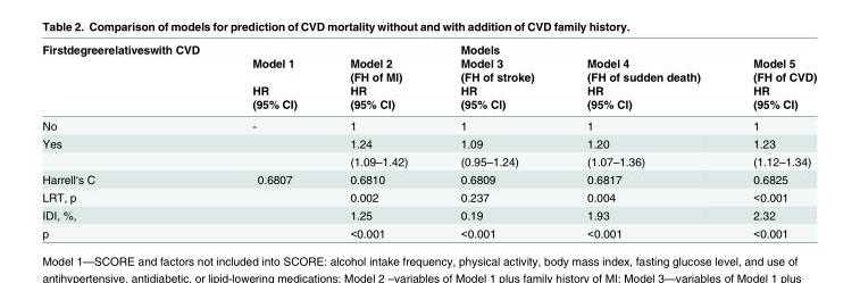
<table><thead><tr><td rowspan="5">Firstdegreerelativeswith CVD</td><td rowspan="5">Model 1 HR (95% CI)</td><td rowspan="5">Model 2 (FH of MI) HR (95% CI)</td><td rowspan="5">Models Model 3 (FH of stroke) HR (95% CI)</td><td rowspan="5">Model 4 (FH of sudden death) HR (95% CI)</td><td rowspan="5">Model 5 (FH of CVD) HR (95% CI)</td></tr><tr></tr><tr></tr><tr></tr><tr></tr></thead><tbody><tr><td>No</td><td>-</td><td>1</td><td>1</td><td>1</td><td>1</td></tr><tr><td rowspan="2">Yes</td><td></td><td>1.24</td><td>1.09</td><td>1.20</td><td>1.23</td></tr><tr><td></td><td>(1.09–1.42)</td><td>(0.95–1.24)</td><td>(1.07–1.36)</td><td>(1.12–1.34)</td></tr><tr><td>Harrell‘s C</td><td>0.6807</td><td>0.6810</td><td>0.6809</td><td>0.6817</td><td>0.6825</td></tr><tr><td>LRT, p</td><td></td><td>0.002</td><td>0.237</td><td>0.004</td><td>&lt;0.001</td></tr><tr><td>IDI, %,</td><td></td><td>1.25</td><td>0.19</td><td>1.93</td><td>2.32</td></tr><tr><td>p</td><td></td><td>&lt;0.001</td><td>&lt;0.001</td><td>&lt;0.001</td><td>&lt;0.001</td></tr></tbody></table>